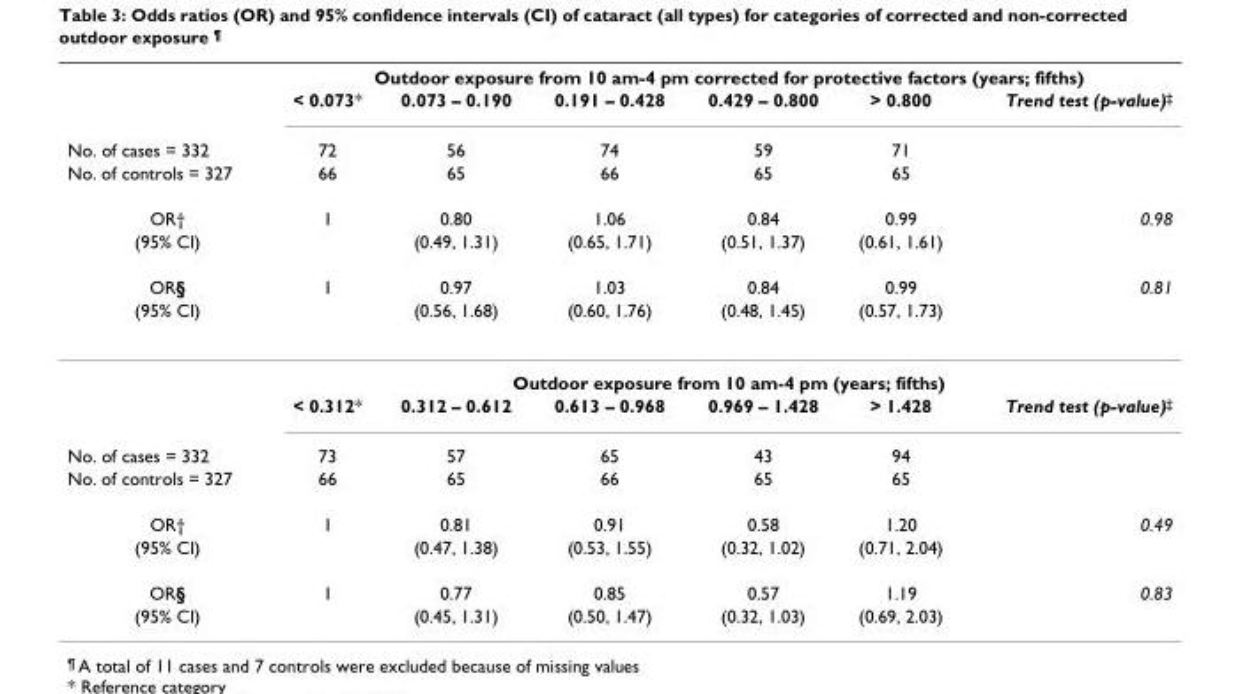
<table><thead><tr><td rowspan="8">No. of cases = 332 No. of controls = 327 OR† (95% CI) OR§ (95% CI)</td><td colspan="6">Outdoor exposure from 10 am-4 pm corrected for protective factors (years; fifths)</td></tr><tr><td rowspan="7">&lt; 0.073* 72 66 1 1</td><td rowspan="7">0.073 – 0.190 56 65 0.80 (0.49, 1.31) 0.97 (0.56, 1.68)</td><td rowspan="7">0.191 – 0.428 74 66 1.06 (0.65, 1.71) 1.03 (0.60, 1.76)</td><td rowspan="7">0.429 – 0.800 59 65 0.84 (0.51, 1.37) 0.84 (0.48, 1.45)</td><td rowspan="7">&gt; 0.800 71 65 0.99 (0.61, 1.61) 0.99 (0.57, 1.73)</td><td rowspan="7">Trend test (p-value)‡ 0.98 0.81</td></tr><tr></tr><tr></tr><tr></tr><tr></tr><tr></tr><tr></tr></thead><tbody><tr><td></td><td colspan="6">Outdoor exposure from 10 am-4 pm (years; fifths)</td></tr><tr><td></td><td>&lt; 0.312*</td><td>0.312 – 0.612</td><td>0.613 – 0.968</td><td>0.969 – 1.428</td><td>&gt; 1.428</td><td>Trend test (p-value)<sup>‡</sup></td></tr><tr><td>No. of cases = 332</td><td>73</td><td>57</td><td>65</td><td>43</td><td>94</td><td></td></tr><tr><td>No. of controls = 327</td><td>66</td><td>65</td><td>66</td><td>65</td><td>65</td><td></td></tr><tr><td>OR†</td><td>1</td><td>0.81</td><td>0.91</td><td>0.58</td><td>1.20</td><td>0.49</td></tr><tr><td>(95% CI)</td><td></td><td>(0.47, 1.38)</td><td>(0.53, 1.55)</td><td>(0.32, 1.02)</td><td>(0.71, 2.04)</td><td></td></tr><tr><td>OR§</td><td>1</td><td>0.77</td><td>0.85</td><td>0.57</td><td>1.19</td><td>0.83</td></tr><tr><td>(95% CI)</td><td></td><td>(0.45, 1.31)</td><td>(0.50, 1.47)</td><td>(0.32, 1.03)</td><td>(0.69, 2.03)</td><td></td></tr></tbody></table>